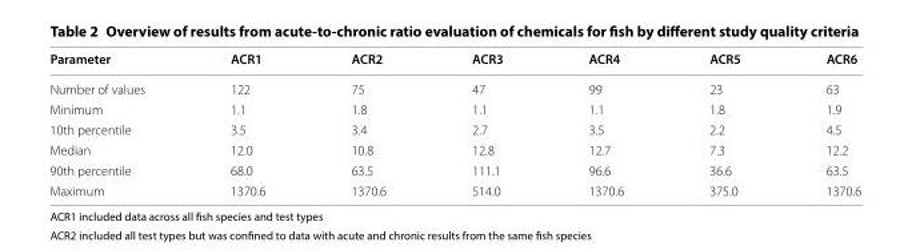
<table><thead><tr><td>Parameter</td><td>ACR1</td><td>ACR2</td><td>ACR3</td><td>ACR4</td><td>ACR5</td><td>ACR6</td></tr></thead><tbody><tr><td>Number of values</td><td>122</td><td>75</td><td>47</td><td>99</td><td>23</td><td>63</td></tr><tr><td>Minimum</td><td>1.1</td><td>1.8</td><td>1.1</td><td>1.1</td><td>1.8</td><td>1.9</td></tr><tr><td>10th percentile</td><td>3.5</td><td>3.4</td><td>2.7</td><td>3.5</td><td>2.2</td><td>4.5</td></tr><tr><td>Median</td><td>12.0</td><td>10.8</td><td>12.8</td><td>12.7</td><td>7.3</td><td>12.2</td></tr><tr><td>90th percentile</td><td>68.0</td><td>63.5</td><td>111.1</td><td>96.6</td><td>36.6</td><td>63.5</td></tr><tr><td>Maximum</td><td>1370.6</td><td>1370.6</td><td>514.0</td><td>1370.6</td><td>375.0</td><td>1370.6</td></tr></tbody></table>